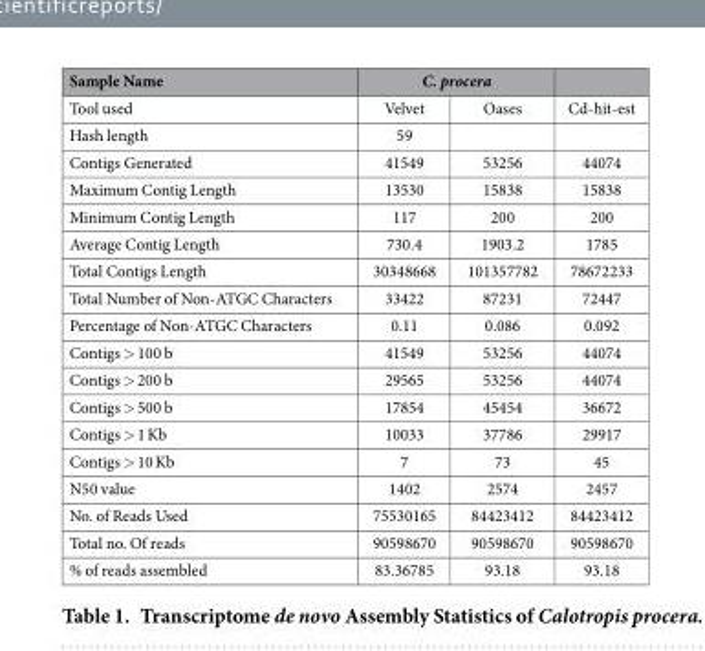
<table><thead><tr><td rowspan="2">Sample Name Tool used</td><td colspan="2">C. procera</td><td rowspan="2">Cd-hit-est</td></tr><tr><td>Velvet</td><td>Oases</td></tr></thead><tbody><tr><td>Hash length</td><td>59</td><td></td><td></td></tr><tr><td>Contigs Generated</td><td>41549</td><td>53256</td><td>44074</td></tr><tr><td>Maximum Contig Length</td><td>13530</td><td>15838</td><td>15838</td></tr><tr><td>Minimum Contig Length</td><td>117</td><td>200</td><td>200</td></tr><tr><td>Average Contig Length</td><td>730.4</td><td>1903.2</td><td>1785</td></tr><tr><td>Total Contigs Length</td><td>30348668</td><td>101357782</td><td>78672233</td></tr><tr><td>Total Number of Non-ATGC Characters</td><td>33422</td><td>87231</td><td>72447</td></tr><tr><td>Percentage of Non-ATGC Characters</td><td>0.11</td><td>0.086</td><td>0.092</td></tr><tr><td>Contigs &gt; 100 b</td><td>41549</td><td>53256</td><td>44074</td></tr><tr><td>Contigs &gt; 200 b</td><td>29565</td><td>53256</td><td>44074</td></tr><tr><td>Contigs &gt; 500 b</td><td>17854</td><td>45454</td><td>36672</td></tr><tr><td>Contigs &gt; 1 Kb</td><td>10033</td><td>37786</td><td>29917</td></tr><tr><td>Contigs &gt; 10 Kb</td><td>7</td><td>73</td><td>45</td></tr><tr><td>N50 value</td><td>1402</td><td>2574</td><td>2457</td></tr><tr><td>No. of Reads Used</td><td>75530165</td><td>84423412</td><td>84423412</td></tr><tr><td>Total no. Of reads</td><td>90598670</td><td>90598670</td><td>90598670</td></tr><tr><td>% of reads assembled</td><td>83.36785</td><td>93.18</td><td>93.18</td></tr></tbody></table>